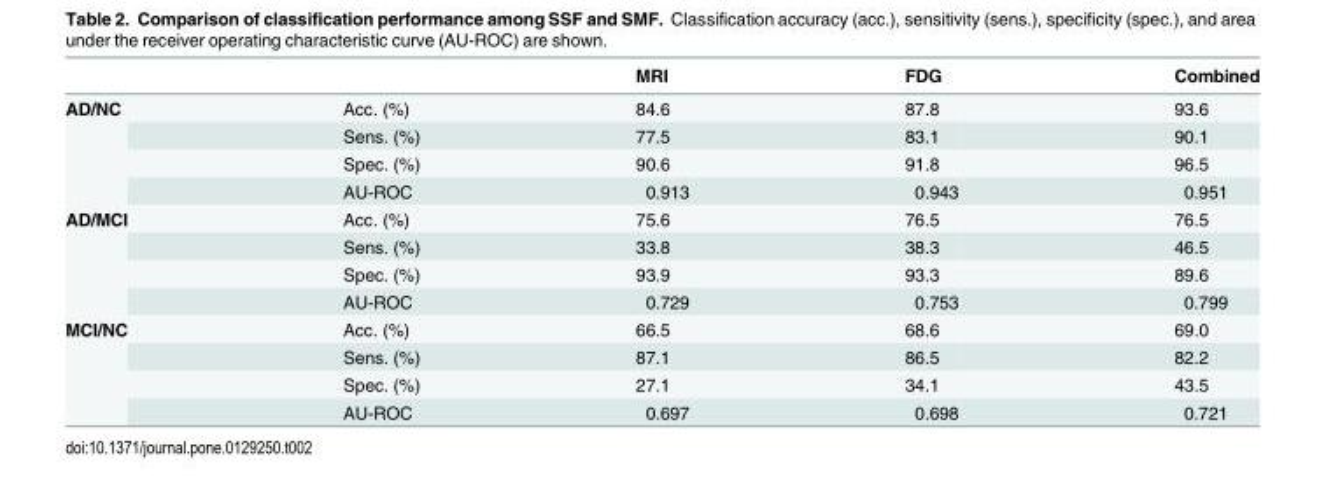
<table><thead><tr><td></td><td></td><td>MRI</td><td>FDG</td><td>Combined</td></tr></thead><tbody><tr><td rowspan="4">AD/NC</td><td>Acc. (%)</td><td>84.6</td><td>87.8</td><td>93.6</td></tr><tr><td>Sens. (%)</td><td>77.5</td><td>83.1</td><td>90.1</td></tr><tr><td>Spec. (%)</td><td>90.6</td><td>91.8</td><td>96.5</td></tr><tr><td>AU-ROC</td><td>0.913</td><td>0.943</td><td>0.951</td></tr><tr><td rowspan="4">AD/MCI</td><td>Acc. (%)</td><td>75.6</td><td>76.5</td><td>76.5</td></tr><tr><td>Sens. (%)</td><td>33.8</td><td>38.3</td><td>46.5</td></tr><tr><td>Spec. (%)</td><td>93.9</td><td>93.3</td><td>89.6</td></tr><tr><td>AU-ROC</td><td>0.729</td><td>0.753</td><td>0.799</td></tr><tr><td rowspan="4">MCI/NC</td><td>Acc. (%)</td><td>66.5</td><td>68.6</td><td>69.0</td></tr><tr><td>Sens. (%)</td><td>87.1</td><td>86.5</td><td>82.2</td></tr><tr><td>Spec. (%)</td><td>27.1</td><td>34.1</td><td>43.5</td></tr><tr><td>AU-ROC</td><td>0.697</td><td>0.698</td><td>0.721</td></tr></tbody></table>